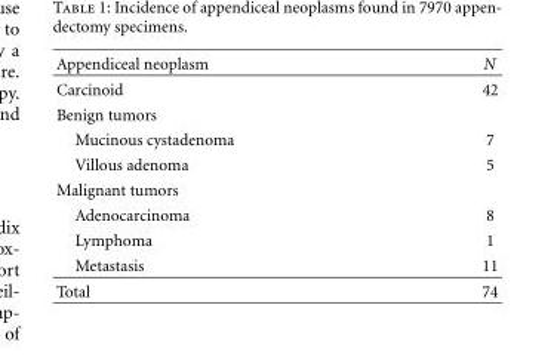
<table><thead><tr><td>Appendiceal neoplasm</td><td>N</td></tr></thead><tbody><tr><td>Carcinoid</td><td>42</td></tr><tr><td colspan="2">Benign tumors</td></tr><tr><td>Mucinous cystadenoma</td><td>7</td></tr><tr><td>Villous adenoma</td><td>5</td></tr><tr><td colspan="2">Malignant tumors</td></tr><tr><td>Adenocarcinoma</td><td>8</td></tr><tr><td>Lymphoma</td><td>1</td></tr><tr><td>Metastasis</td><td>11</td></tr><tr><td>Total</td><td>74</td></tr></tbody></table>